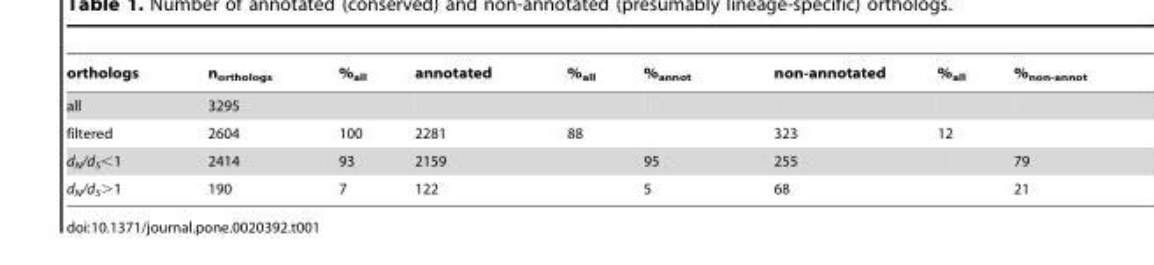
<table><thead><tr><td>orthologs</td><td>n<sub>orthologs</sub></td><td>%<sub>all</sub></td><td>annotated</td><td>%<sub>all</sub></td><td>%<sub>annot</sub></td><td>non-annotated</td><td>%<sub>all</sub></td><td>%<sub>non-annot</sub></td></tr></thead><tbody><tr><td>all</td><td>3295</td><td></td><td></td><td></td><td></td><td></td><td></td><td></td></tr><tr><td>filtered</td><td>2604</td><td>100</td><td>2281</td><td>88</td><td></td><td>323</td><td>12</td><td></td></tr><tr><td>d<sub>N</sub>/d<sub>S</sub>&lt;1</td><td>2414</td><td>93</td><td>2159</td><td></td><td>95</td><td>255</td><td></td><td>79</td></tr><tr><td>d<sub>N</sub>/d<sub>S</sub>&gt;1</td><td>190</td><td>7</td><td>122</td><td></td><td>5</td><td>68</td><td></td><td>21</td></tr></tbody></table>